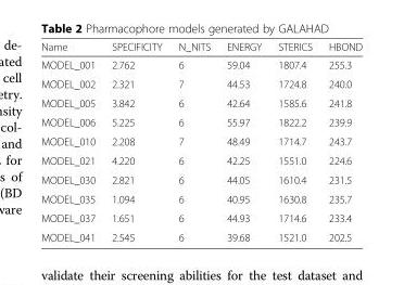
<table><thead><tr><td>Name</td><td>SPECIFICITY</td><td>N_NITS</td><td>ENERGY</td><td>STERICS</td><td>HBOND</td></tr></thead><tbody><tr><td>MODEL_001</td><td>2.762</td><td>6</td><td>59.04</td><td>1807.4</td><td>255.3</td></tr><tr><td>MODEL_002</td><td>2.321</td><td>7</td><td>44.53</td><td>1724.8</td><td>240.0</td></tr><tr><td>MODEL_005</td><td>3.842</td><td>6</td><td>42.64</td><td>1585.6</td><td>241.8</td></tr><tr><td>MODEL_006</td><td>5.225</td><td>6</td><td>55.97</td><td>1822.2</td><td>239.9</td></tr><tr><td>MODEL_010</td><td>2.208</td><td>7</td><td>48.49</td><td>1714.7</td><td>243.7</td></tr><tr><td>MODEL_021</td><td>4.220</td><td>6</td><td>42.25</td><td>1551.0</td><td>224.6</td></tr><tr><td>MODEL_030</td><td>2.821</td><td>6</td><td>44.05</td><td>1610.4</td><td>231.5</td></tr><tr><td>MODEL_035</td><td>1.094</td><td>6</td><td>40.95</td><td>1630.8</td><td>235.7</td></tr><tr><td>MODEL_037</td><td>1.651</td><td>6</td><td>44.93</td><td>1714.6</td><td>233.4</td></tr><tr><td>MODEL_041</td><td>2.545</td><td>6</td><td>39.68</td><td>1521.0</td><td>202.5</td></tr></tbody></table>